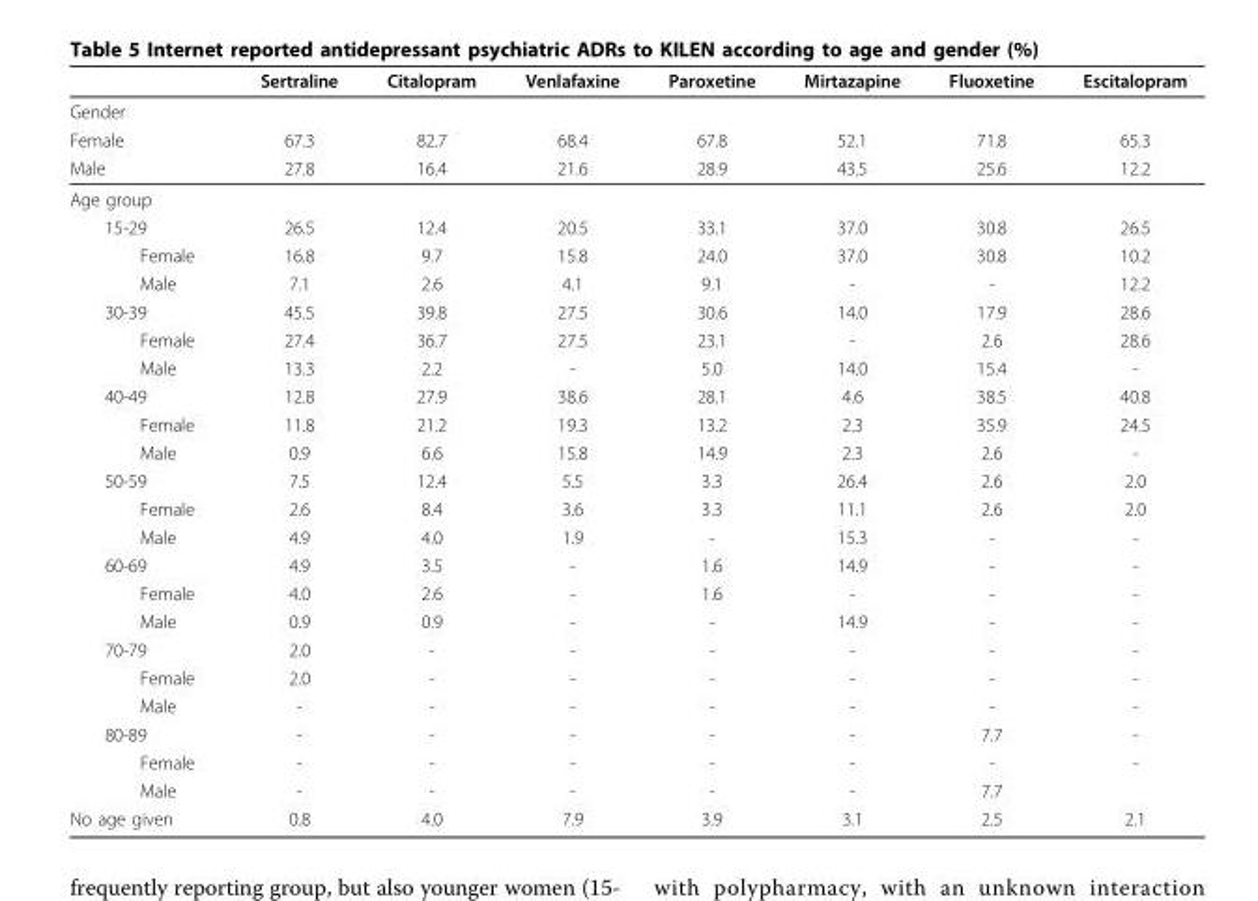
<table><thead><tr><td></td><td>Sertraline</td><td>Citalopram</td><td>Venlafaxine</td><td>Paroxetine</td><td>Mirtazapine</td><td>Fluoxetine</td><td>Escitalopram</td></tr></thead><tbody><tr><td colspan="8">Gender</td></tr><tr><td>Female</td><td>67.3</td><td>82.7</td><td>68.4</td><td>67.8</td><td>52.1</td><td>71.8</td><td>65.3</td></tr><tr><td>Male</td><td>27.8</td><td>16.4</td><td>21.6</td><td>28.9</td><td>43.5</td><td>25.6</td><td>12.2</td></tr><tr><td colspan="8">Age group</td></tr><tr><td>15-29</td><td>26.5</td><td>12.4</td><td>20.5</td><td>33.1</td><td>37.0</td><td>30.8</td><td>26.5</td></tr><tr><td>Female</td><td>16.8</td><td>9.7</td><td>15.8</td><td>24.0</td><td>37.0</td><td>30.8</td><td>10.2</td></tr><tr><td>Male</td><td>7.1</td><td>2.6</td><td>4.1</td><td>9.1</td><td>-</td><td>-</td><td>12.2</td></tr><tr><td>30-39</td><td>45.5</td><td>39.8</td><td>27.5</td><td>30.6</td><td>14.0</td><td>17.9</td><td>28.6</td></tr><tr><td>Female</td><td>27.4</td><td>36.7</td><td>27.5</td><td>23.1</td><td>-</td><td>2.6</td><td>28.6</td></tr><tr><td>Male</td><td>13.3</td><td>2.2</td><td>-</td><td>5.0</td><td>14.0</td><td>15.4</td><td>-</td></tr><tr><td>40-49</td><td>12.8</td><td>27.9</td><td>38.6</td><td>28.1</td><td>4.6</td><td>38.5</td><td>40.8</td></tr><tr><td>Female</td><td>11.8</td><td>21.2</td><td>19.3</td><td>13.2</td><td>2.3</td><td>35.9</td><td>24.5</td></tr><tr><td>Male</td><td>0.9</td><td>6.6</td><td>15.8</td><td>14.9</td><td>2.3</td><td>2.6</td><td>-</td></tr><tr><td>50-59</td><td>7.5</td><td>12.4</td><td>5.5</td><td>3.3</td><td>26.4</td><td>2.6</td><td>2.0</td></tr><tr><td>Female</td><td>2.6</td><td>8.4</td><td>3.6</td><td>3.3</td><td>11.1</td><td>2.6</td><td>2.0</td></tr><tr><td>Male</td><td>4.9</td><td>4.0</td><td>1.9</td><td>-</td><td>15.3</td><td>-</td><td>-</td></tr><tr><td>60-69</td><td>4.9</td><td>3.5</td><td>-</td><td>1.6</td><td>14.9</td><td>-</td><td>-</td></tr><tr><td>Female</td><td>4.0</td><td>2.6</td><td>-</td><td>1.6</td><td>-</td><td>-</td><td>-</td></tr><tr><td>Male</td><td>0.9</td><td>0.9</td><td>-</td><td>-</td><td>14.9</td><td>-</td><td>-</td></tr><tr><td>70-79</td><td>2.0</td><td>-</td><td>-</td><td>-</td><td>-</td><td>-</td><td>-</td></tr><tr><td>Female</td><td>2.0</td><td>-</td><td>-</td><td>-</td><td>-</td><td>-</td><td>-</td></tr><tr><td>Male</td><td>-</td><td>-</td><td>-</td><td>-</td><td>-</td><td>-</td><td>-</td></tr><tr><td>80-89</td><td>-</td><td>-</td><td>-</td><td>-</td><td>-</td><td>7.7</td><td>-</td></tr><tr><td>Female</td><td>-</td><td>-</td><td>-</td><td>-</td><td>-</td><td>-</td><td>-</td></tr><tr><td>Male</td><td>-</td><td>-</td><td>-</td><td>-</td><td>-</td><td>7.7</td><td></td></tr><tr><td>No age given</td><td>0.8</td><td>4.0</td><td>7.9</td><td>3.9</td><td>3.1</td><td>2.5</td><td>2.1</td></tr></tbody></table>